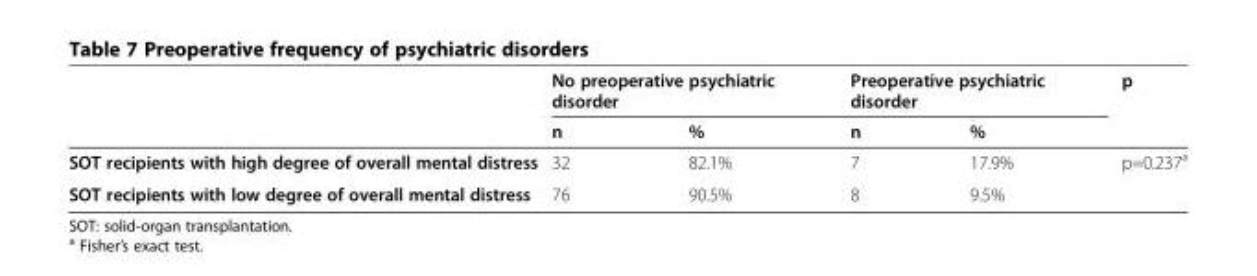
<table><thead><tr><td rowspan="2"></td><td colspan="2">No preoperative psychiatric disorder</td><td colspan="2">Preoperative psychiatric disorder</td><td rowspan="2">p</td></tr><tr><td>n</td><td>%</td><td>n</td><td>%</td></tr></thead><tbody><tr><td>SOT recipients with high degree of overall mental distress</td><td>32</td><td>82.1%</td><td>7</td><td>17.9%</td><td>p=0.237<sup>a</sup></td></tr><tr><td>SOT recipients with low degree of overall mental distress</td><td>76</td><td>90.5%</td><td>8</td><td>9.5%</td><td></td></tr></tbody></table>